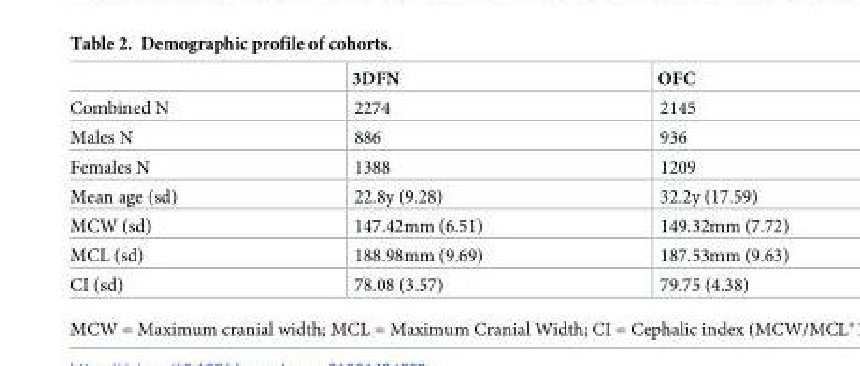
<table><thead><tr><td></td><td>3DFN</td><td>OFC</td></tr></thead><tbody><tr><td>Combined N</td><td>2274</td><td>2145</td></tr><tr><td>Males N</td><td>886</td><td>936</td></tr><tr><td>Females N</td><td>1388</td><td>1209</td></tr><tr><td>Mean age (sd)</td><td>22.8y (9.28)</td><td>32.2y (17.59)</td></tr><tr><td>MCW (sd)</td><td>147.42mm (6.51)</td><td>149.32mm (7.72)</td></tr><tr><td>MCL (sd)</td><td>188.98mm (9.69)</td><td>187.53mm (9.63)</td></tr><tr><td>CI (sd)</td><td>78.08 (3.57)</td><td>79.75 (4.38)</td></tr></tbody></table>